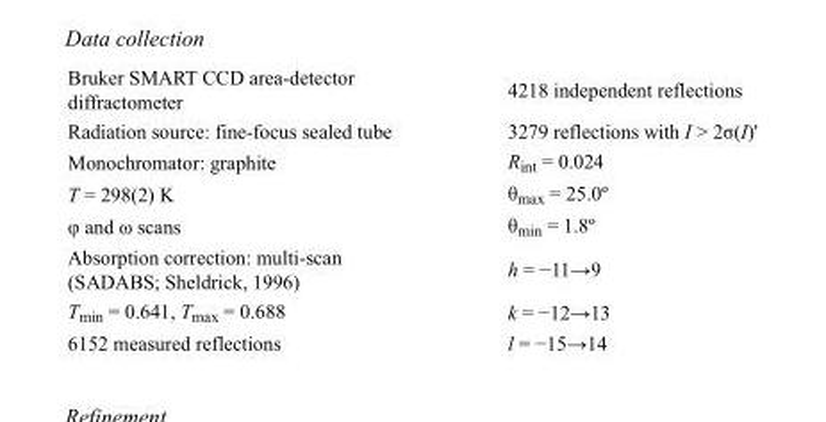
<table><tbody><tr><td>Bruker SMART CCD area-detector diffractometer</td><td>4218 independent reflections</td></tr><tr><td>Radiation source: fine-focus sealed tube</td><td>3279 reflections with I &gt; 2σ(I)&#x27;</td></tr><tr><td>Monochromator: graphite</td><td>R<sub>int</sub> = 0.024</td></tr><tr><td>T = 298(2) K</td><td>θ<sub>max</sub> = 25.0º</td></tr><tr><td>φ and ω scans</td><td>θ<sub>min</sub> = 1.8º</td></tr><tr><td>Absorption correction: multi-scan (SADABS; Sheldrick, 1996)</td><td>h = −11→9</td></tr><tr><td>T<sub>min</sub> = 0.641, T<sub>max</sub> = 0.688</td><td>k = −12→13</td></tr><tr><td>6152 measured reflections</td><td>l = −15→14</td></tr></tbody></table>